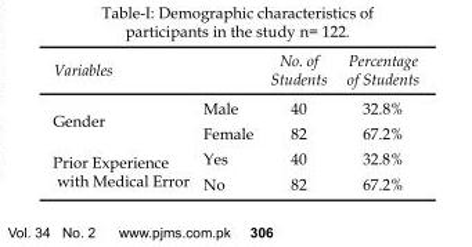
<table><thead><tr><td>Variables</td><td></td><td>No. of Students</td><td>Percentage of Students</td></tr></thead><tbody><tr><td rowspan="2">Gender</td><td>Male</td><td>40</td><td>32.8%</td></tr><tr><td>Female</td><td>82</td><td>67.2%</td></tr><tr><td rowspan="2">Prior Experience with Medical Error</td><td>Yes</td><td>40</td><td>32.8%</td></tr><tr><td>No</td><td>82</td><td>67.2%</td></tr></tbody></table>